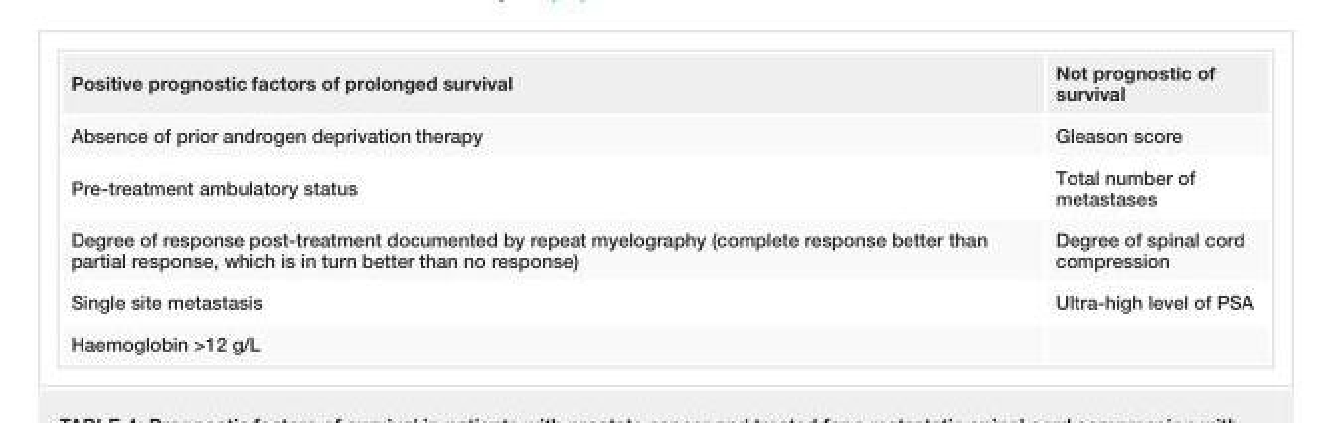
<table><tbody><tr><td>Positive prognostic factors of prolonged survival</td><td>Not prognostic of survival</td></tr><tr><td>Absence of prior androgen deprivation therapy</td><td>Gleason score</td></tr><tr><td>Pre-treatment ambulatory status</td><td>Total number of metastases</td></tr><tr><td>Degree of response post-treatment documented by repeat myelography (complete response better than partial response, which is in turn better than no response)</td><td>Degree of spinal cord compression</td></tr><tr><td>Single site metastasis</td><td>Ultra-high level of PSA</td></tr><tr><td>Haemoglobin &gt;12 g/L</td><td></td></tr></tbody></table>